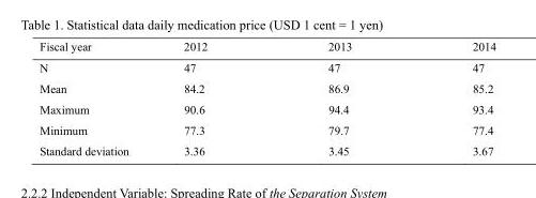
<table><thead><tr><td>Fiscal year</td><td>2012</td><td>2013</td><td>2014</td></tr></thead><tbody><tr><td>N</td><td>47</td><td>47</td><td>47</td></tr><tr><td>Mean</td><td>84.2</td><td>86.9</td><td>85.2</td></tr><tr><td>Maximum</td><td>90.6</td><td>94.4</td><td>93.4</td></tr><tr><td>Minimum</td><td>77.3</td><td>79.7</td><td>77.4</td></tr><tr><td>Standard deviation</td><td>3.36</td><td>3.45</td><td>3.67</td></tr></tbody></table>